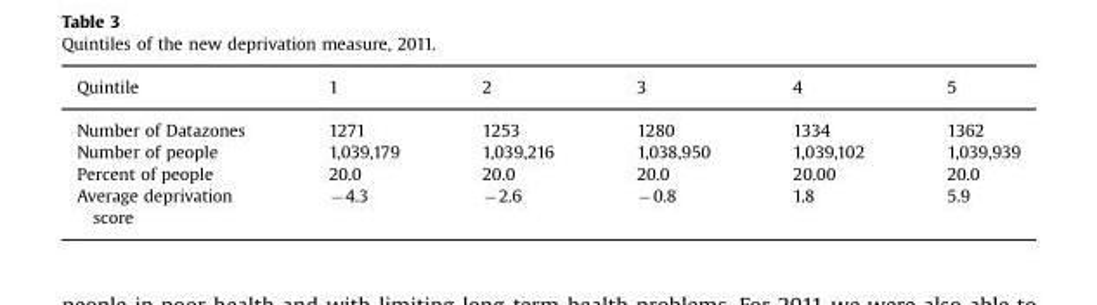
<table><thead><tr><td>Quintile</td><td>1</td><td>2</td><td>3</td><td>4</td><td>5</td></tr></thead><tbody><tr><td>Number of Datazones</td><td>1271</td><td>1253</td><td>1280</td><td>1334</td><td>1362</td></tr><tr><td>Number of people</td><td>1,039,179</td><td>1,039,216</td><td>1,038,950</td><td>1,039,102</td><td>1,039,939</td></tr><tr><td>Percent of people</td><td>20.0</td><td>20.0</td><td>20.0</td><td>20.00</td><td>20.0</td></tr><tr><td>Average deprivation score</td><td>−4.3</td><td>−2.6</td><td>−0.8</td><td>1.8</td><td>5.9</td></tr></tbody></table>